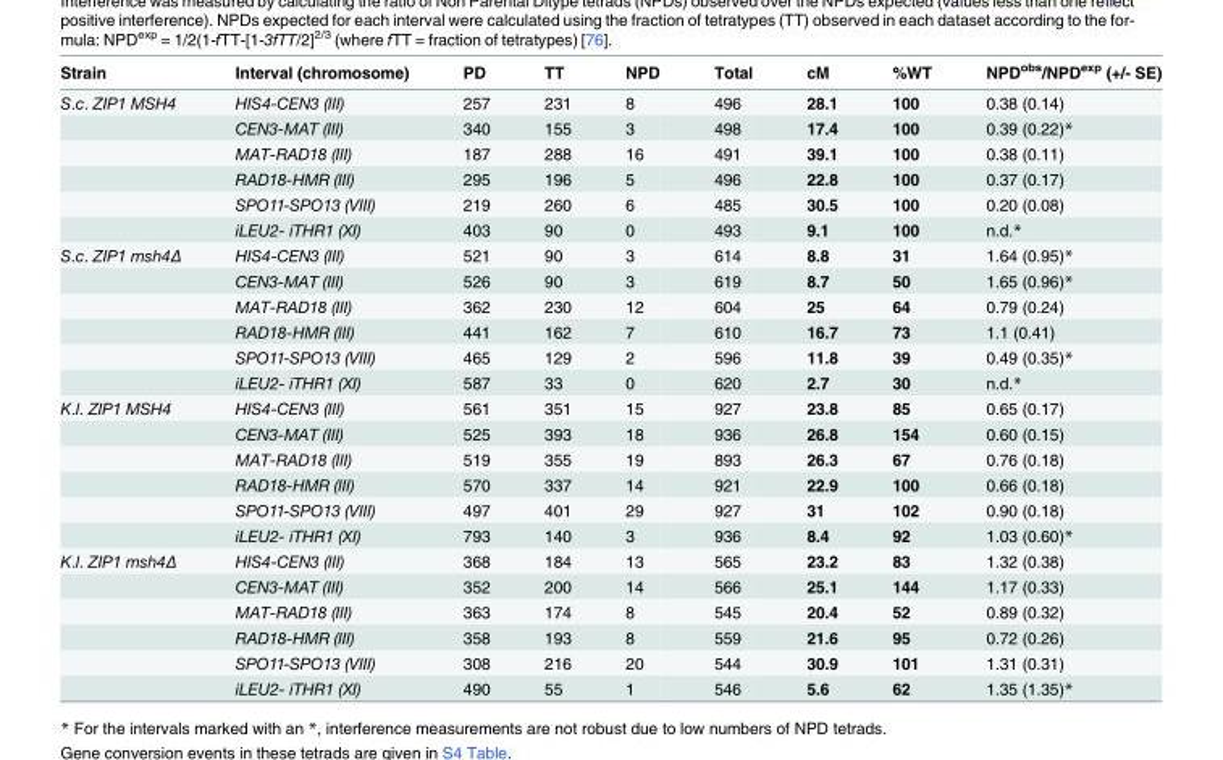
<table><thead><tr><td>Strain</td><td>Interval (chromosome)</td><td>PD</td><td>TT</td><td>NPD</td><td>Total</td><td>cM</td><td>%WT</td><td>NPD<sup>obs</sup>/NPD<sup>exp</sup> (+/- SE)</td></tr></thead><tbody><tr><td rowspan="6">S.c. ZIP1 MSH4</td><td>HIS4-CEN3 (III)</td><td>257</td><td>231</td><td>8</td><td>496</td><td>28.1</td><td>100</td><td>0.38 (0.14)</td></tr><tr><td>CEN3-MAT (III)</td><td>340</td><td>155</td><td>3</td><td>498</td><td>17.4</td><td>100</td><td>0.39 (0.22)*</td></tr><tr><td>MAT-RAD18 (III)</td><td>187</td><td>288</td><td>16</td><td>491</td><td>39.1</td><td>100</td><td>0.38 (0.11)</td></tr><tr><td>RAD18-HMR (III)</td><td>295</td><td>196</td><td>5</td><td>496</td><td>22.8</td><td>100</td><td>0.37 (0.17)</td></tr><tr><td>SPO11-SPO13 (VIII)</td><td>219</td><td>260</td><td>6</td><td>485</td><td>30.5</td><td>100</td><td>0.20 (0.08)</td></tr><tr><td>iLEU2- iTHR1 (XI)</td><td>403</td><td>90</td><td>0</td><td>493</td><td>9.1</td><td>100</td><td>n.d.*</td></tr><tr><td rowspan="6">S.c. ZIP1 msh4Δ</td><td>HIS4-CEN3 (III)</td><td>521</td><td>90</td><td>3</td><td>614</td><td>8.8</td><td>31</td><td>1.64 (0.95)*</td></tr><tr><td>CEN3-MAT (III)</td><td>526</td><td>90</td><td>3</td><td>619</td><td>8.7</td><td>50</td><td>1.65 (0.96)*</td></tr><tr><td>MAT-RAD18 (III)</td><td>362</td><td>230</td><td>12</td><td>604</td><td>25</td><td>64</td><td>0.79 (0.24)</td></tr><tr><td>RAD18-HMR (III)</td><td>441</td><td>162</td><td>7</td><td>610</td><td>16.7</td><td>73</td><td>1.1 (0.41)</td></tr><tr><td>SPO11-SPO13 (VIII)</td><td>465</td><td>129</td><td>2</td><td>596</td><td>11.8</td><td>39</td><td>0.49 (0.35)*</td></tr><tr><td>iLEU2- iTHR1 (XI)</td><td>587</td><td>33</td><td>0</td><td>620</td><td>2.7</td><td>30</td><td>n.d.*</td></tr><tr><td rowspan="6">K.l. ZIP1 MSH4</td><td>HIS4-CEN3 (III)</td><td>561</td><td>351</td><td>15</td><td>927</td><td>23.8</td><td>85</td><td>0.65 (0.17)</td></tr><tr><td>CEN3-MAT (III)</td><td>525</td><td>393</td><td>18</td><td>936</td><td>26.8</td><td>154</td><td>0.60 (0.15)</td></tr><tr><td>MAT-RAD18 (III)</td><td>519</td><td>355</td><td>19</td><td>893</td><td>26.3</td><td>67</td><td>0.76 (0.18)</td></tr><tr><td>RAD18-HMR (III)</td><td>570</td><td>337</td><td>14</td><td>921</td><td>22.9</td><td>100</td><td>0.66 (0.18)</td></tr><tr><td>SPO11-SPO13 (VIII)</td><td>497</td><td>401</td><td>29</td><td>927</td><td>31</td><td>102</td><td>0.90 (0.18)</td></tr><tr><td>iLEU2- iTHR1 (XI)</td><td>793</td><td>140</td><td>3</td><td>936</td><td>8.4</td><td>92</td><td>1.03 (0.60)*</td></tr><tr><td rowspan="6">K.l. ZIP1 msh4Δ</td><td>HIS4-CEN3 (III)</td><td>368</td><td>184</td><td>13</td><td>565</td><td>23.2</td><td>83</td><td>1.32 (0.38)</td></tr><tr><td>CEN3-MAT (III)</td><td>352</td><td>200</td><td>14</td><td>566</td><td>25.1</td><td>144</td><td>1.17 (0.33)</td></tr><tr><td>MAT-RAD18 (III)</td><td>363</td><td>174</td><td>8</td><td>545</td><td>20.4</td><td>52</td><td>0.89 (0.32)</td></tr><tr><td>RAD18-HMR (III)</td><td>358</td><td>193</td><td>8</td><td>559</td><td>21.6</td><td>95</td><td>0.72 (0.26)</td></tr><tr><td>SPO11-SPO13 (VIII)</td><td>308</td><td>216</td><td>20</td><td>544</td><td>30.9</td><td>101</td><td>1.31 (0.31)</td></tr><tr><td>iLEU2- iTHR1 (XI)</td><td>490</td><td>55</td><td>1</td><td>546</td><td>5.6</td><td>62</td><td>1.35 (1.35)*</td></tr></tbody></table>